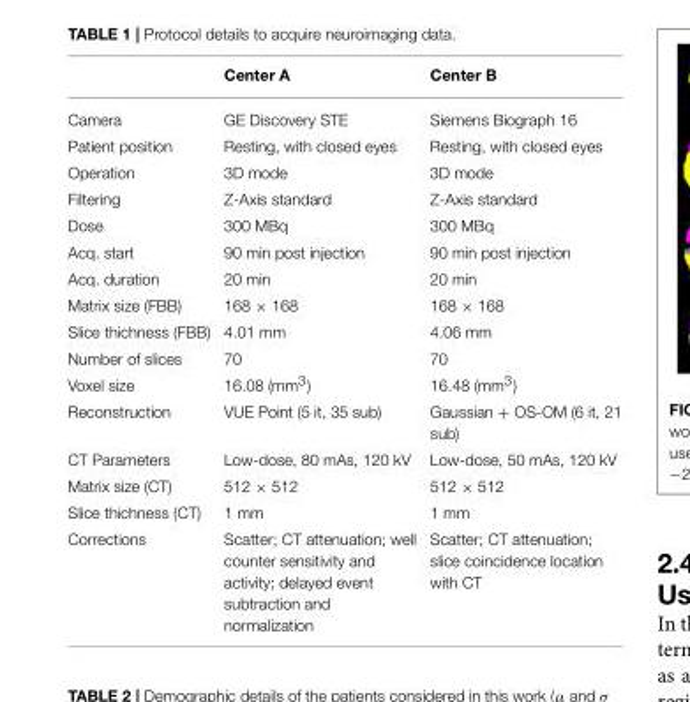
<table><thead><tr><td></td><td>Center A</td><td>Center B</td></tr></thead><tbody><tr><td>Camera</td><td>GE Discovery STE</td><td>Siemens Biograph 16</td></tr><tr><td>Patient position</td><td>Resting, with closed eyes</td><td>Resting, with closed eyes</td></tr><tr><td>Operation</td><td>3D mode</td><td>3D mode</td></tr><tr><td>Filtering</td><td>Z-Axis standard</td><td>Z-Axis standard</td></tr><tr><td>Dose</td><td>300 MBq</td><td>300 MBq</td></tr><tr><td>Acq. start</td><td>90 min post injection</td><td>90 min post injection</td></tr><tr><td>Acq. duration</td><td>20 min</td><td>20 min</td></tr><tr><td>Matrix size (FBB)</td><td>168 × 168</td><td>168 × 168</td></tr><tr><td>Slice thichness (FBB)</td><td>4.01 mm</td><td>4.06 mm</td></tr><tr><td>Number of slices</td><td>70</td><td>70</td></tr><tr><td>Voxel size</td><td>16.08 (mm<sup>3</sup>)</td><td>16.48 (mm<sup>3</sup>)</td></tr><tr><td>Reconstruction</td><td>VUE Point (5 it, 35 sub)</td><td>Gaussian + OS-OM (6 it, 21 sub)</td></tr><tr><td>CT Parameters</td><td>Low-dose, 80 mAs, 120 kV</td><td>Low-dose, 50 mAs, 120 kV</td></tr><tr><td>Matrix size (CT)</td><td>512 × 512</td><td>512 × 512</td></tr><tr><td>Slice thichness (CT)</td><td>1 mm</td><td>1 mm</td></tr><tr><td>Corrections</td><td>Scatter; CT attenuation; well counter sensitivity and activity; delayed event subtraction and normalization</td><td>Scatter; CT attenuation; slice coincidence location with CT</td></tr></tbody></table>